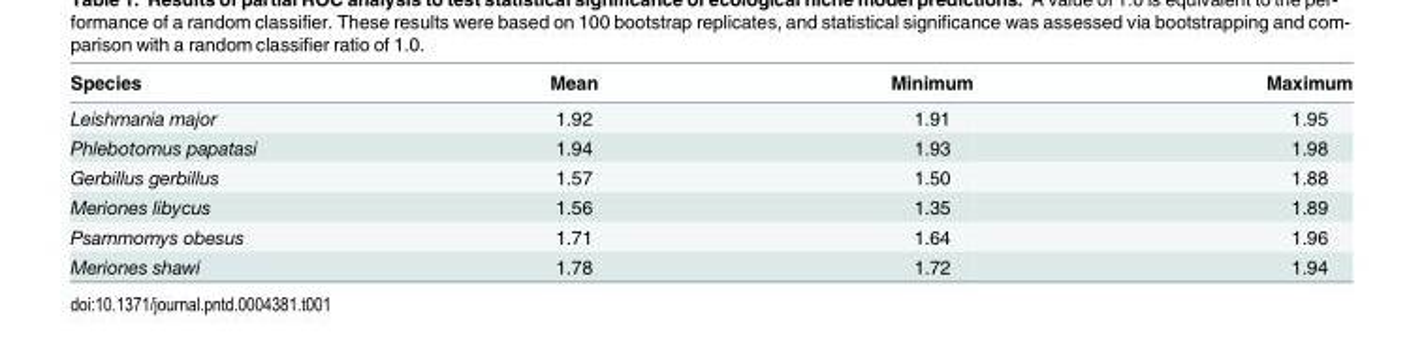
<table><thead><tr><td>Species</td><td>Mean</td><td>Minimum</td><td>Maximum</td></tr></thead><tbody><tr><td>Leishmania major</td><td>1.92</td><td>1.91</td><td>1.95</td></tr><tr><td>Phlebotomus papatasi</td><td>1.94</td><td>1.93</td><td>1.98</td></tr><tr><td>Gerbillus gerbillus</td><td>1.57</td><td>1.50</td><td>1.88</td></tr><tr><td>Meriones libycus</td><td>1.56</td><td>1.35</td><td>1.89</td></tr><tr><td>Psammomys obesus</td><td>1.71</td><td>1.64</td><td>1.96</td></tr><tr><td>Meriones shawi</td><td>1.78</td><td>1.72</td><td>1.94</td></tr></tbody></table>